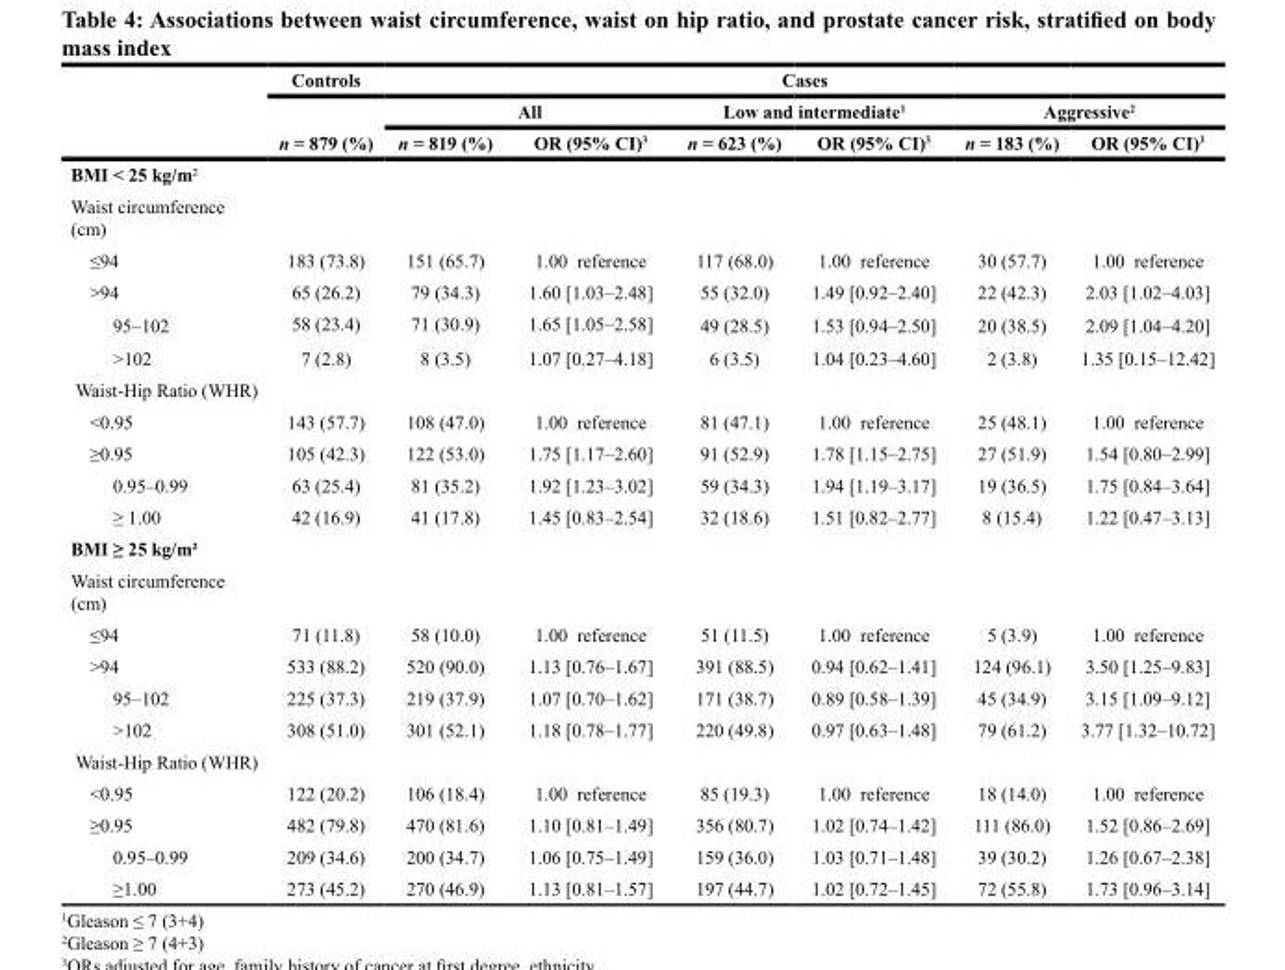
<table><thead><tr><td rowspan="3"></td><td rowspan="3">Controls n = 879 (%)</td><td colspan="6">Cases</td></tr><tr><td colspan="2">All</td><td colspan="2">Low and intermediate<sup>1</sup></td><td colspan="2">Aggressive<sup>2</sup></td></tr><tr><td>n = 819 (%)</td><td>OR (95% CI)<sup>3</sup></td><td>n = 623 (%)</td><td>OR (95% CI)<sup>3</sup></td><td>n = 183 (%)</td><td>OR (95% CI)<sup>3</sup></td></tr></thead><tbody><tr><td colspan="8">BMI &lt; 25 kg/m²</td></tr><tr><td colspan="8">Waist circumference (cm)</td></tr><tr><td>≤94</td><td>183 (73.8)</td><td>151 (65.7)</td><td>1.00 reference</td><td>117 (68.0)</td><td>1.00 reference</td><td>30 (57.7)</td><td>1.00 reference</td></tr><tr><td>&gt;94</td><td>65 (26.2)</td><td>79 (34.3)</td><td>1.60 [1.03–2.48]</td><td>55 (32.0)</td><td>1.49 [0.92–2.40]</td><td>22 (42.3)</td><td>2.03 [1.02–4.03]</td></tr><tr><td>95–102</td><td>58 (23.4)</td><td>71 (30.9)</td><td>1.65 [1.05–2.58]</td><td>49 (28.5)</td><td>1.53 [0.94–2.50]</td><td>20 (38.5)</td><td>2.09 [1.04–4.20]</td></tr><tr><td>&gt;102</td><td>7 (2.8)</td><td>8 (3.5)</td><td>1.07 [0.27–4.18]</td><td>6 (3.5)</td><td>1.04 [0.23–4.60]</td><td>2 (3.8)</td><td>1.35 [0.15–12.42]</td></tr><tr><td colspan="8">Waist-Hip Ratio (WHR)</td></tr><tr><td>&lt;0.95</td><td>143 (57.7)</td><td>108 (47.0)</td><td>1.00 reference</td><td>81 (47.1)</td><td>1.00 reference</td><td>25 (48.1)</td><td>1.00 reference</td></tr><tr><td>≥0.95</td><td>105 (42.3)</td><td>122 (53.0)</td><td>1.75 [1.17–2.60]</td><td>91 (52.9)</td><td>1.78 [1.15–2.75]</td><td>27 (51.9)</td><td>1.54 [0.80–2.99]</td></tr><tr><td>0.95–0.99</td><td>63 (25.4)</td><td>81 (35.2)</td><td>1.92 [1.23–3.02]</td><td>59 (34.3)</td><td>1.94 [1.19–3.17]</td><td>19 (36.5)</td><td>1.75 [0.84–3.64]</td></tr><tr><td>≥ 1.00</td><td>42 (16.9)</td><td>41 (17.8)</td><td>1.45 [0.83–2.54]</td><td>32 (18.6)</td><td>1.51 [0.82–2.77]</td><td>8 (15.4)</td><td>1.22 [0.47–3.13]</td></tr><tr><td colspan="8">BMI ≥ 25 kg/m²</td></tr><tr><td colspan="8">Waist circumference (cm)</td></tr><tr><td>≤94</td><td>71 (11.8)</td><td>58 (10.0)</td><td>1.00 reference</td><td>51 (11.5)</td><td>1.00 reference</td><td>5 (3.9)</td><td>1.00 reference</td></tr><tr><td>&gt;94</td><td>533 (88.2)</td><td>520 (90.0)</td><td>1.13 [0.76–1.67]</td><td>391 (88.5)</td><td>0.94 [0.62–1.41]</td><td>124 (96.1)</td><td>3.50 [1.25–9.83]</td></tr><tr><td>95–102</td><td>225 (37.3)</td><td>219 (37.9)</td><td>1.07 [0.70–1.62]</td><td>171 (38.7)</td><td>0.89 [0.58–1.39]</td><td>45 (34.9)</td><td>3.15 [1.09–9.12]</td></tr><tr><td>&gt;102</td><td>308 (51.0)</td><td>301 (52.1)</td><td>1.18 [0.78–1.77]</td><td>220 (49.8)</td><td>0.97 [0.63–1.48]</td><td>79 (61.2)</td><td>3.77 [1.32–10.72]</td></tr><tr><td colspan="8">Waist-Hip Ratio (WHR)</td></tr><tr><td>&lt;0.95</td><td>122 (20.2)</td><td>106 (18.4)</td><td>1.00 reference</td><td>85 (19.3)</td><td>1.00 reference</td><td>18 (14.0)</td><td>1.00 reference</td></tr><tr><td>≥0.95</td><td>482 (79.8)</td><td>470 (81.6)</td><td>1.10 [0.81–1.49]</td><td>356 (80.7)</td><td>1.02 [0.74–1.42]</td><td>111 (86.0)</td><td>1.52 [0.86–2.69]</td></tr><tr><td>0.95–0.99</td><td>209 (34.6)</td><td>200 (34.7)</td><td>1.06 [0.75–1.49]</td><td>159 (36.0)</td><td>1.03 [0.71–1.48]</td><td>39 (30.2)</td><td>1.26 [0.67–2.38]</td></tr><tr><td>≥1.00</td><td>273 (45.2)</td><td>270 (46.9)</td><td>1.13 [0.81–1.57]</td><td>197 (44.7)</td><td>1.02 [0.72–1.45]</td><td>72 (55.8)</td><td>1.73 [0.96–3.14]</td></tr></tbody></table>